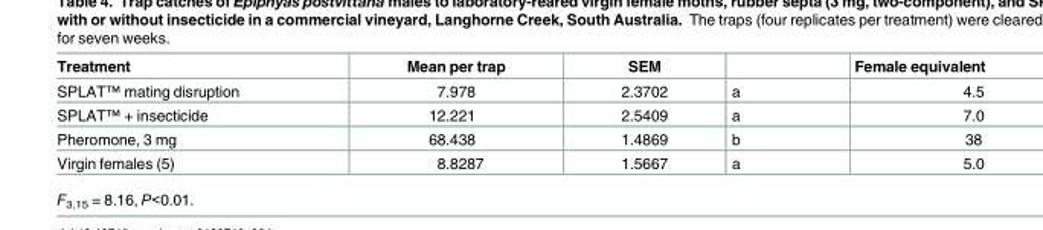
<table><thead><tr><td>Treatment</td><td>Mean per trap</td><td>SEM</td><td></td><td>Female equivalent</td></tr></thead><tbody><tr><td>SPLAT<sup>™</sup> mating disruption</td><td>7.978</td><td>2.3702</td><td>a</td><td>4.5</td></tr><tr><td>SPLAT<sup>™</sup> + insecticide</td><td>12.221</td><td>2.5409</td><td>a</td><td>7.0</td></tr><tr><td>Pheromone, 3 mg</td><td>68.438</td><td>1.4869</td><td>b</td><td>38</td></tr><tr><td>Virgin females (5)</td><td>8.8287</td><td>1.5667</td><td>a</td><td>5.0</td></tr></tbody></table>